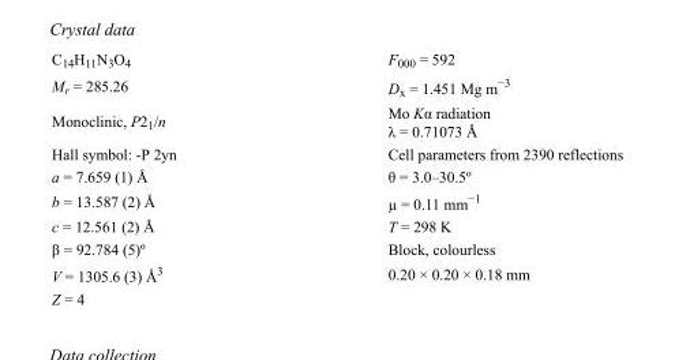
<table><tbody><tr><td>C<sub>14</sub>H<sub>11</sub>N<sub>3</sub>O<sub>4</sub></td><td>F000 = 592</td></tr><tr><td>M<sub>r</sub> = 285.26</td><td>D<sub>x</sub> = 1.451 Mg m<sup>−3</sup></td></tr><tr><td>Monoclinic, P2<sub>1</sub>/n</td><td>Mo Kα radiation λ = 0.71073 Å</td></tr><tr><td>Hall symbol: -P 2yn</td><td>Cell parameters from 2390 reflections</td></tr><tr><td>a = 7.659 (1) Å</td><td>θ = 3.0–30.5º</td></tr><tr><td>b = 13.587 (2) Å</td><td>µ = 0.11 mm<sup>−1</sup></td></tr><tr><td>c = 12.561 (2) Å</td><td>T = 298 K</td></tr><tr><td>β = 92.784 (5)º</td><td>Block, colourless</td></tr><tr><td>V = 1305.6 (3) Å<sup>3</sup></td><td>0.20 × 0.20 × 0.18 mm</td></tr><tr><td>Z = 4</td><td></td></tr></tbody></table>